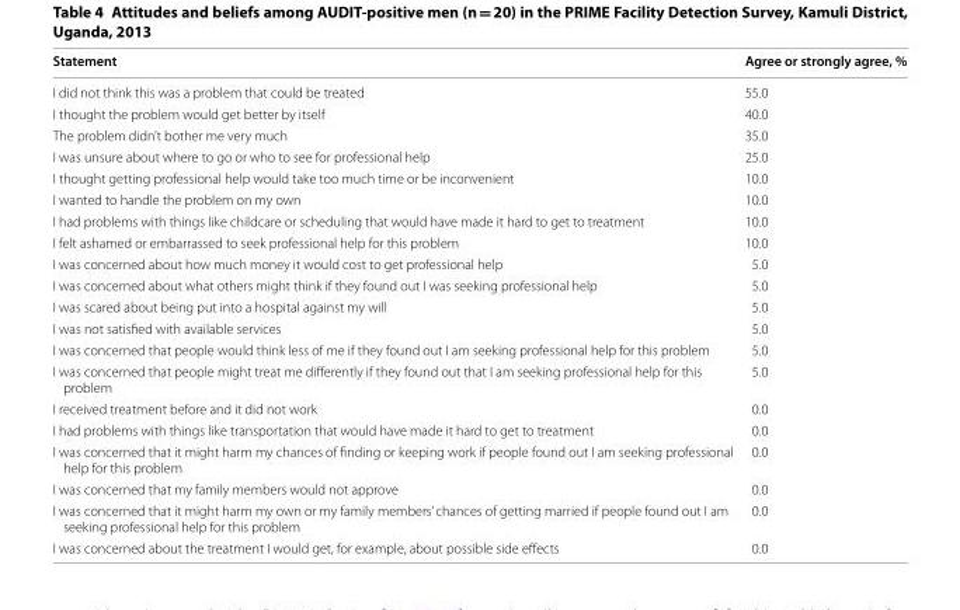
<table><thead><tr><td>Statement</td><td>Agree or strongly agree, %</td></tr></thead><tbody><tr><td>I did not think this was a problem that could be treated</td><td>55.0</td></tr><tr><td>I thought the problem would get better by itself</td><td>40.0</td></tr><tr><td>The problem didn’t bother me very much</td><td>35.0</td></tr><tr><td>I was unsure about where to go or who to see for professional help</td><td>25.0</td></tr><tr><td>I thought getting professional help would take too much time or be inconvenient</td><td>10.0</td></tr><tr><td>I wanted to handle the problem on my own</td><td>10.0</td></tr><tr><td>I had problems with things like childcare or scheduling that would have made it hard to get to treatment</td><td>10.0</td></tr><tr><td>I felt ashamed or embarrassed to seek professional help for this problem</td><td>10.0</td></tr><tr><td>I was concerned about how much money it would cost to get professional help</td><td>5.0</td></tr><tr><td>I was concerned about what others might think if they found out I was seeking professional help</td><td>5.0</td></tr><tr><td>I was scared about being put into a hospital against my will</td><td>5.0</td></tr><tr><td>I was not satisfied with available services</td><td>5.0</td></tr><tr><td>I was concerned that people would think less of me if they found out I am seeking professional help for this problem</td><td>5.0</td></tr><tr><td>I was concerned that people might treat me differently if they found out that I am seeking professional help for this problem</td><td>5.0</td></tr><tr><td>I received treatment before and it did not work</td><td>0.0</td></tr><tr><td>I had problems with things like transportation that would have made it hard to get to treatment</td><td>0.0</td></tr><tr><td>I was concerned that it might harm my chances of finding or keeping work if people found out I am seeking professional help for this problem</td><td>0.0</td></tr><tr><td>I was concerned that my family members would not approve</td><td>0.0</td></tr><tr><td>I was concerned that it might harm my own or my family members’ chances of getting married if people found out I am seeking professional help for this problem</td><td>0.0</td></tr><tr><td>I was concerned about the treatment I would get, for example, about possible side effects</td><td>0.0</td></tr></tbody></table>